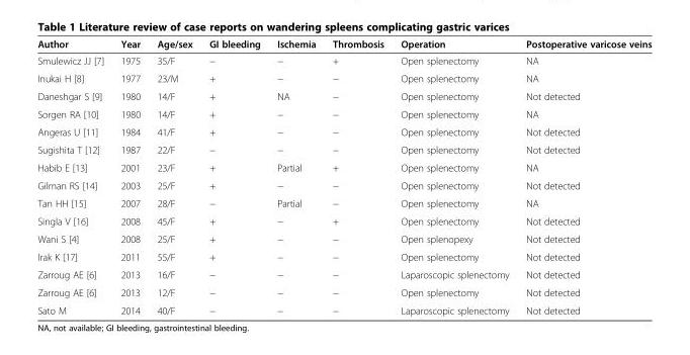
<table><thead><tr><td>Author</td><td>Year</td><td>Age/sex</td><td>GI bleeding</td><td>Ischemia</td><td>Thrombosis</td><td>Operation</td><td>Postoperative varicose veins</td></tr></thead><tbody><tr><td>Smulewicz JJ [7]</td><td>1975</td><td>35/F</td><td>−</td><td>−</td><td>+</td><td>Open splenectomy</td><td>NA</td></tr><tr><td>Inukai H [8]</td><td>1977</td><td>23/M</td><td>+</td><td>−</td><td>−</td><td>Open splenectomy</td><td>NA</td></tr><tr><td>Daneshgar S [9]</td><td>1980</td><td>14/F</td><td>+</td><td>NA</td><td>−</td><td>Open splenectomy</td><td>Not detected</td></tr><tr><td>Sorgen RA [10]</td><td>1980</td><td>14/F</td><td>+</td><td>−</td><td>−</td><td>Open splenectomy</td><td>NA</td></tr><tr><td>Angeras U [11]</td><td>1984</td><td>41/F</td><td>+</td><td>−</td><td>−</td><td>Open splenectomy</td><td>Not detected</td></tr><tr><td>Sugishita T [12]</td><td>1987</td><td>22/F</td><td>−</td><td>−</td><td>−</td><td>Open splenectomy</td><td>Not detected</td></tr><tr><td>Habib E [13]</td><td>2001</td><td>23/F</td><td>+</td><td>Partial</td><td>+</td><td>Open splenectomy</td><td>NA</td></tr><tr><td>Gilman RS [14]</td><td>2003</td><td>25/F</td><td>+</td><td>−</td><td>−</td><td>Open splenectomy</td><td>Not detected</td></tr><tr><td>Tan HH [15]</td><td>2007</td><td>28/F</td><td>−</td><td>Partial</td><td>−</td><td>Open splenectomy</td><td>NA</td></tr><tr><td>Singla V [16]</td><td>2008</td><td>45/F</td><td>+</td><td>−</td><td>+</td><td>Open splenectomy</td><td>Not detected</td></tr><tr><td>Wani S [4]</td><td>2008</td><td>25/F</td><td>+</td><td>−</td><td>−</td><td>Open splenopexy</td><td>Not detected</td></tr><tr><td>Irak K [17]</td><td>2011</td><td>55/F</td><td>+</td><td>−</td><td>−</td><td>Open splenectomy</td><td>Not detected</td></tr><tr><td>Zarroug AE [6]</td><td>2013</td><td>16/F</td><td>−</td><td>−</td><td>−</td><td>Laparoscopic splenectomy</td><td>Not detected</td></tr><tr><td>Zarroug AE [6]</td><td>2013</td><td>12/F</td><td>−</td><td>−</td><td>−</td><td>Open splenectomy</td><td>Not detected</td></tr><tr><td>Sato M</td><td>2014</td><td>40/F</td><td>−</td><td>−</td><td>−</td><td>Laparoscopic splenectomy</td><td>Not detected</td></tr></tbody></table>